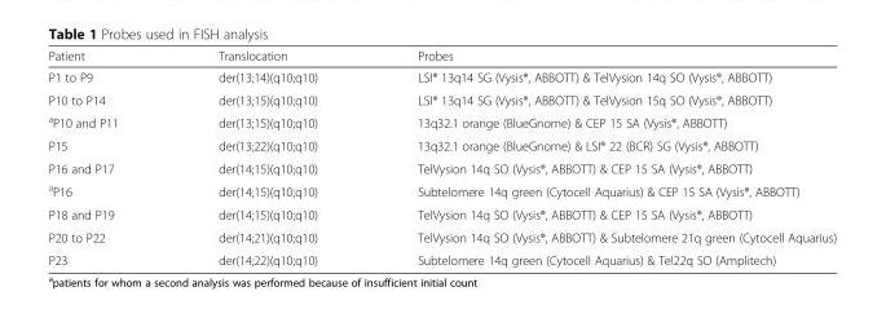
<table><thead><tr><td>Patient</td><td>Translocation</td><td>Probes</td></tr></thead><tbody><tr><td>P1 to P9</td><td>der(13;14)(q10;q10)</td><td>LSI® 13q14 SG (Vysis®, ABBOTT) &amp; TelVysion 14q SO (Vysis®, ABBOTT)</td></tr><tr><td>P10 to P14</td><td>der(13;15)(q10;q10)</td><td>LSI® 13q14 SG (Vysis®, ABBOTT) &amp; TelVysion 15q SO (Vysis®, ABBOTT)</td></tr><tr><td><sup>a</sup>P10 and P11</td><td>der(13;15)(q10;q10)</td><td>13q32.1 orange (BlueGnome) &amp; CEP 15 SA (Vysis®, ABBOTT)</td></tr><tr><td>P15</td><td>der(13;22)(q10;q10)</td><td>13q32.1 orange (BlueGnome) &amp; LSI® 22 (BCR) SG (Vysis®, ABBOTT)</td></tr><tr><td>P16 and P17</td><td>der(14;15)(q10;q10)</td><td>TelVysion 14q SO (Vysis®, ABBOTT) &amp; CEP 15 SA (Vysis®, ABBOTT)</td></tr><tr><td><sup>a</sup>P16</td><td>der(14;15)(q10;q10)</td><td>Subtelomere 14q green (Cytocell Aquarius) &amp; CEP 15 SA (Vysis®, ABBOTT)</td></tr><tr><td>P18 and P19</td><td>der(14;15)(q10;q10)</td><td>TelVysion 14q SO (Vysis®, ABBOTT) &amp; CEP 15 SA (Vysis®, ABBOTT)</td></tr><tr><td>P20 to P22</td><td>der(14;21)(q10;q10)</td><td>TelVysion 14q SO (Vysis®, ABBOTT) &amp; Subtelomere 21q green (Cytocell Aquarius)</td></tr><tr><td>P23</td><td>der(14;22)(q10;q10)</td><td>Subtelomere 14q green (Cytocell Aquarius) &amp; Tel22q SO (Amplitech)</td></tr></tbody></table>